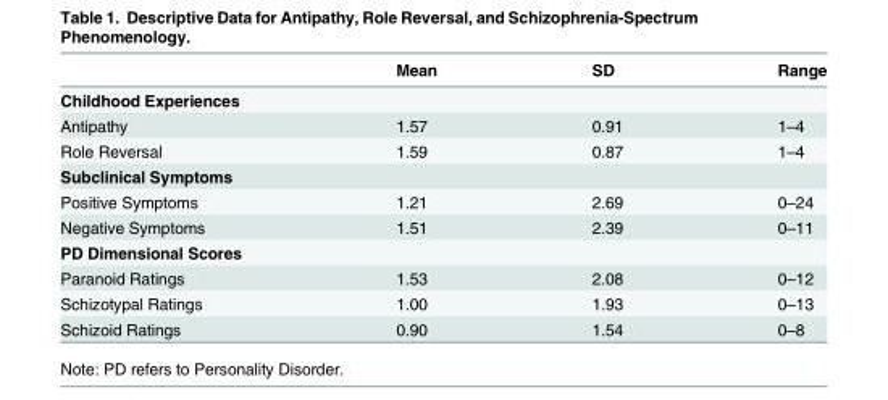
<table><thead><tr><td></td><td>Mean</td><td>SD</td><td>Range</td></tr></thead><tbody><tr><td colspan="4">Childhood Experiences</td></tr><tr><td>Antipathy</td><td>1.57</td><td>0.91</td><td>1–4</td></tr><tr><td>Role Reversal</td><td>1.59</td><td>0.87</td><td>1–4</td></tr><tr><td colspan="4">Subclinical Symptoms</td></tr><tr><td>Positive Symptoms</td><td>1.21</td><td>2.69</td><td>0–24</td></tr><tr><td>Negative Symptoms</td><td>1.51</td><td>2.39</td><td>0–11</td></tr><tr><td colspan="4">PD Dimensional Scores</td></tr><tr><td>Paranoid Ratings</td><td>1.53</td><td>2.08</td><td>0–12</td></tr><tr><td>Schizotypal Ratings</td><td>1.00</td><td>1.93</td><td>0–13</td></tr><tr><td>Schizoid Ratings</td><td>0.90</td><td>1.54</td><td>0–8</td></tr></tbody></table>